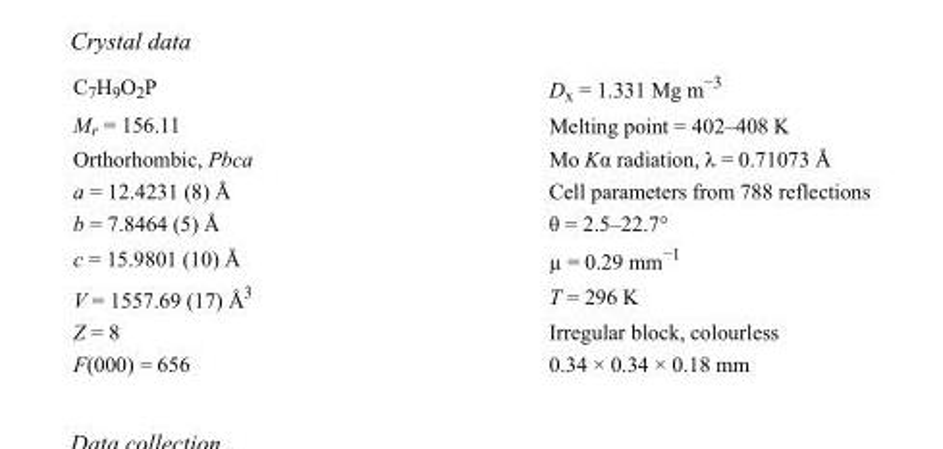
<table><tbody><tr><td>C<sub>7</sub>H<sub>9</sub>O<sub>2</sub>P</td><td>D<sub>x</sub> = 1.331 Mg m<sup>−3</sup></td></tr><tr><td>M<sub>r</sub> = 156.11</td><td>Melting point = 402–408 K</td></tr><tr><td>Orthorhombic, Pbca</td><td>Mo Kα radiation, λ = 0.71073 Å</td></tr><tr><td>a = 12.4231 (8) Å</td><td>Cell parameters from 788 reflections</td></tr><tr><td>b = 7.8464 (5) Å</td><td>θ = 2.5–22.7°</td></tr><tr><td>c = 15.9801 (10) Å</td><td>µ = 0.29 mm<sup>−1</sup></td></tr><tr><td>V = 1557.69 (17) Å<sup>3</sup></td><td>T = 296 K</td></tr><tr><td>Z = 8</td><td>Irregular block, colourless</td></tr><tr><td>F(000) = 656</td><td>0.34 × 0.34 × 0.18 mm</td></tr></tbody></table>